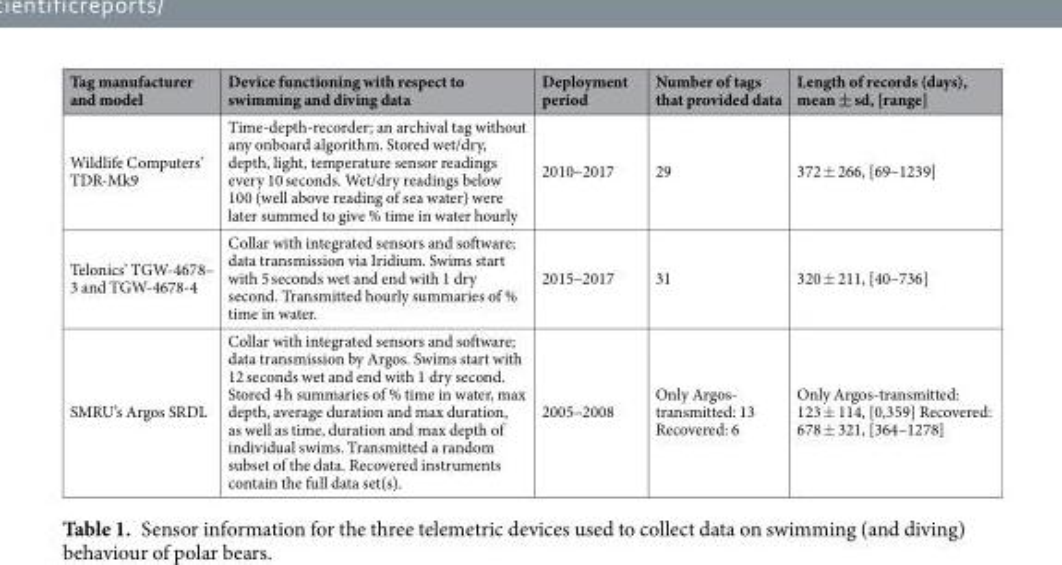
<table><thead><tr><td>Tag manufacturer and model</td><td>Device functioning with respect to swimming and diving data</td><td>Deployment period</td><td>Number of tags that provided data</td><td>Length of records (days), mean ± sd, [range]</td></tr></thead><tbody><tr><td>Wildlife Computers’ TDR-Mk9</td><td>Time-depth-recorder; an archival tag without any onboard algorithm. Stored wet/dry, depth, light, temperature sensor readings every 10 seconds. Wet/dry readings below 100 (well above reading of sea water) were later summed to give % time in water hourly</td><td>2010–2017</td><td>29</td><td>372 ± 266, [69–1239]</td></tr><tr><td>Telonics’ TGW-4678– 3 and TGW-4678-4</td><td>Collar with integrated sensors and software; data transmission via Iridium. Swims start with 5 seconds wet and end with 1 dry second. Transmitted hourly summaries of % time in water.</td><td>2015–2017</td><td>31</td><td>320 ± 211, [40–736]</td></tr><tr><td>SMRU’s Argos SRDL</td><td>Collar with integrated sensors and software; data transmission by Argos. Swims start with 12 seconds wet and end with 1 dry second. Stored 4 h summaries of % time in water, max depth, average duration and max duration, as well as time, duration and max depth of individual swims. Transmitted a random subset of the data. Recovered instruments contain the full data set(s).</td><td>2005–2008</td><td>Only Argos- transmitted: 13 Recovered: 6</td><td>Only Argos-transmitted: 123 ± 114, [0,359] Recovered: 678 ± 321, [364–1278]</td></tr></tbody></table>